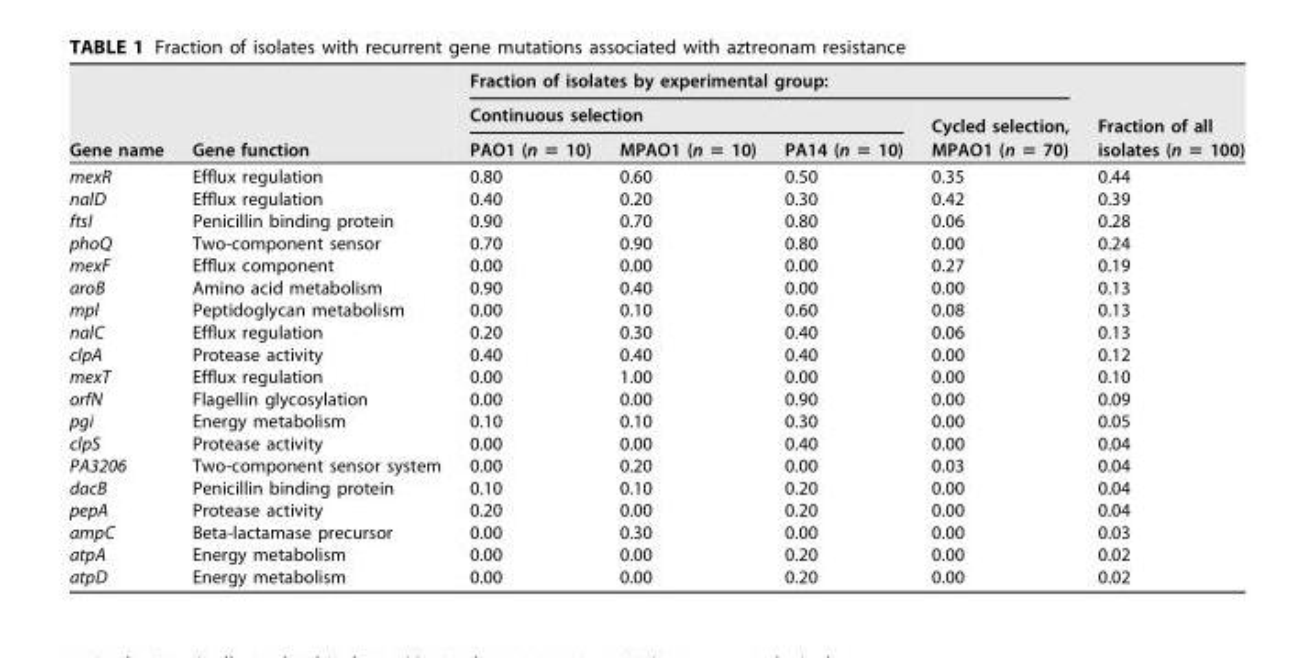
<table><thead><tr><td rowspan="3">Gene name</td><td rowspan="3">Gene function</td><td colspan="4">Fraction of isolates by experimental group:</td><td rowspan="3">Fraction of all isolates (n = 100)</td></tr><tr><td colspan="3">Continuous selection</td><td rowspan="2">Cycled selection, MPAO1 (n = 70)</td></tr><tr><td>PAO1 (n = 10)</td><td>MPAO1 (n = 10)</td><td>PA14 (n = 10)</td></tr></thead><tbody><tr><td>mexR</td><td>Efflux regulation</td><td>0.80</td><td>0.60</td><td>0.50</td><td>0.35</td><td>0.44</td></tr><tr><td>nalD</td><td>Efflux regulation</td><td>0.40</td><td>0.20</td><td>0.30</td><td>0.42</td><td>0.39</td></tr><tr><td>ftsI</td><td>Penicillin binding protein</td><td>0.90</td><td>0.70</td><td>0.80</td><td>0.06</td><td>0.28</td></tr><tr><td>phoQ</td><td>Two-component sensor</td><td>0.70</td><td>0.90</td><td>0.80</td><td>0.00</td><td>0.24</td></tr><tr><td>mexF</td><td>Efflux component</td><td>0.00</td><td>0.00</td><td>0.00</td><td>0.27</td><td>0.19</td></tr><tr><td>aroB</td><td>Amino acid metabolism</td><td>0.90</td><td>0.40</td><td>0.00</td><td>0.00</td><td>0.13</td></tr><tr><td>mpl</td><td>Peptidoglycan metabolism</td><td>0.00</td><td>0.10</td><td>0.60</td><td>0.08</td><td>0.13</td></tr><tr><td>nalC</td><td>Efflux regulation</td><td>0.20</td><td>0.30</td><td>0.40</td><td>0.06</td><td>0.13</td></tr><tr><td>clpA</td><td>Protease activity</td><td>0.40</td><td>0.40</td><td>0.40</td><td>0.00</td><td>0.12</td></tr><tr><td>mexT</td><td>Efflux regulation</td><td>0.00</td><td>1.00</td><td>0.00</td><td>0.00</td><td>0.10</td></tr><tr><td>orfN</td><td>Flagellin glycosylation</td><td>0.00</td><td>0.00</td><td>0.90</td><td>0.00</td><td>0.09</td></tr><tr><td>pgi</td><td>Energy metabolism</td><td>0.10</td><td>0.10</td><td>0.30</td><td>0.00</td><td>0.05</td></tr><tr><td>clpS</td><td>Protease activity</td><td>0.00</td><td>0.00</td><td>0.40</td><td>0.00</td><td>0.04</td></tr><tr><td>PA3206</td><td>Two-component sensor system</td><td>0.00</td><td>0.20</td><td>0.00</td><td>0.03</td><td>0.04</td></tr><tr><td>dacB</td><td>Penicillin binding protein</td><td>0.10</td><td>0.10</td><td>0.20</td><td>0.00</td><td>0.04</td></tr><tr><td>pepA</td><td>Protease activity</td><td>0.20</td><td>0.00</td><td>0.20</td><td>0.00</td><td>0.04</td></tr><tr><td>ampC</td><td>Beta-lactamase precursor</td><td>0.00</td><td>0.30</td><td>0.00</td><td>0.00</td><td>0.03</td></tr><tr><td>atpA</td><td>Energy metabolism</td><td>0.00</td><td>0.00</td><td>0.20</td><td>0.00</td><td>0.02</td></tr><tr><td>atpD</td><td>Energy metabolism</td><td>0.00</td><td>0.00</td><td>0.20</td><td>0.00</td><td>0.02</td></tr></tbody></table>